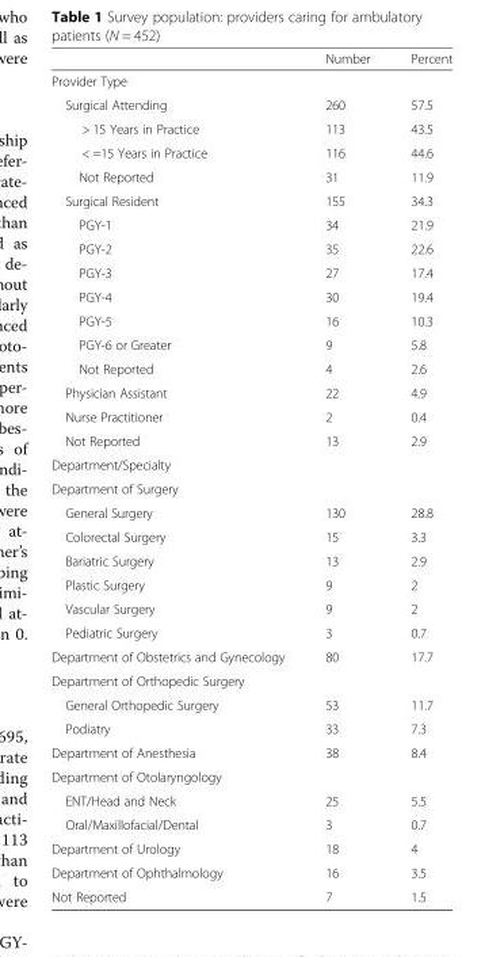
<table><thead><tr><td></td><td>Number</td><td>Percent</td></tr></thead><tbody><tr><td colspan="3">Provider Type</td></tr><tr><td>Surgical Attending</td><td>260</td><td>57.5</td></tr><tr><td>&gt; 15 Years in Practice</td><td>113</td><td>43.5</td></tr><tr><td>&lt; =15 Years in Practice</td><td>116</td><td>44.6</td></tr><tr><td>Not Reported</td><td>31</td><td>11.9</td></tr><tr><td>Surgical Resident</td><td>155</td><td>34.3</td></tr><tr><td>PGY-1</td><td>34</td><td>21.9</td></tr><tr><td>PGY-2</td><td>35</td><td>22.6</td></tr><tr><td>PGY-3</td><td>27</td><td>17.4</td></tr><tr><td>PGY-4</td><td>30</td><td>19.4</td></tr><tr><td>PGY-5</td><td>16</td><td>10.3</td></tr><tr><td>PGY-6 or Greater</td><td>9</td><td>5.8</td></tr><tr><td>Not Reported</td><td>4</td><td>2.6</td></tr><tr><td>Physician Assistant</td><td>22</td><td>4.9</td></tr><tr><td>Nurse Practitioner</td><td>2</td><td>0.4</td></tr><tr><td>Not Reported</td><td>13</td><td>2.9</td></tr><tr><td colspan="3">Department/Specialty</td></tr><tr><td colspan="3">Department of Surgery</td></tr><tr><td>General Surgery</td><td>130</td><td>28.8</td></tr><tr><td>Colorectal Surgery</td><td>15</td><td>3.3</td></tr><tr><td>Bariatric Surgery</td><td>13</td><td>2.9</td></tr><tr><td>Plastic Surgery</td><td>9</td><td>2</td></tr><tr><td>Vascular Surgery</td><td>9</td><td>2</td></tr><tr><td>Pediatric Surgery</td><td>3</td><td>0.7</td></tr><tr><td>Department of Obstetrics and Gynecology</td><td>80</td><td>17.7</td></tr><tr><td colspan="3">Department of Orthopedic Surgery</td></tr><tr><td>General Orthopedic Surgery</td><td>53</td><td>11.7</td></tr><tr><td>Podiatry</td><td>33</td><td>7.3</td></tr><tr><td>Department of Anesthesia</td><td>38</td><td>8.4</td></tr><tr><td colspan="3">Department of Otolaryngology</td></tr><tr><td>ENT/Head and Neck</td><td>25</td><td>5.5</td></tr><tr><td>Oral/Maxillofacial/Dental</td><td>3</td><td>0.7</td></tr><tr><td>Department of Urology</td><td>18</td><td>4</td></tr><tr><td>Department of Ophthalmology</td><td>16</td><td>3.5</td></tr><tr><td>Not Reported</td><td>7</td><td>1.5</td></tr></tbody></table>